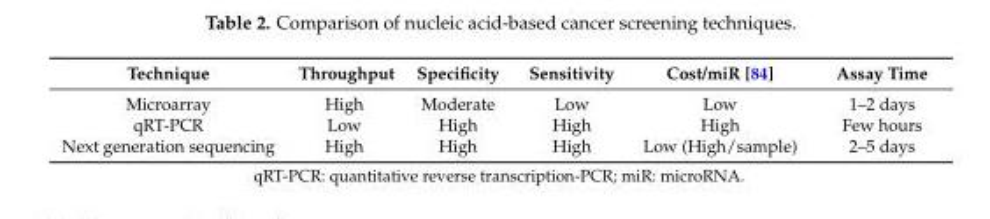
<table><thead><tr><td>Technique</td><td>Throughput</td><td>Specificity</td><td>Sensitivity</td><td>Cost/miR [84]</td><td>Assay Time</td></tr></thead><tbody><tr><td>Microarray</td><td>High</td><td>Moderate</td><td>Low</td><td>Low</td><td>1–2 days</td></tr><tr><td>qRT-PCR</td><td>Low</td><td>High</td><td>High</td><td>High</td><td>Few hours</td></tr><tr><td>Next generation sequencing</td><td>High</td><td>High</td><td>High</td><td>Low (High/sample)</td><td>2–5 days</td></tr></tbody></table>